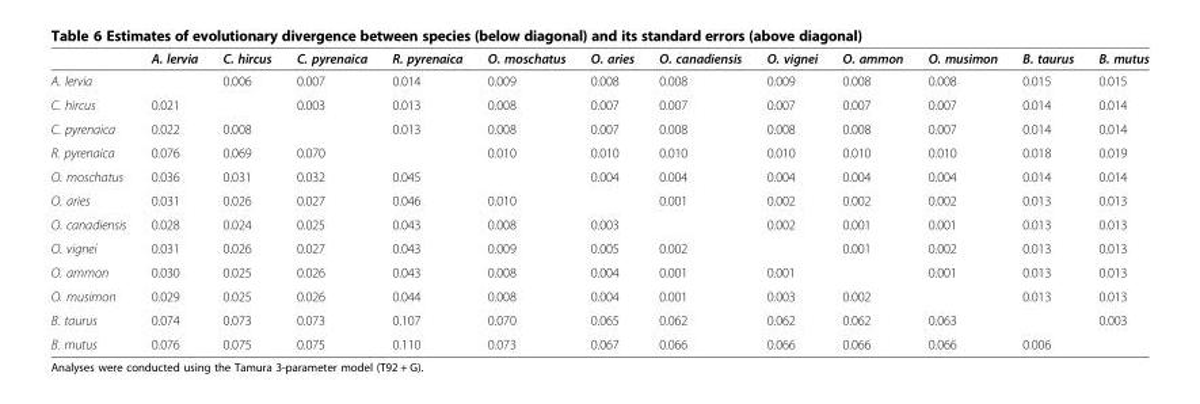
<table><thead><tr><td></td><td>A. lervia</td><td>C. hircus</td><td>C. pyrenaica</td><td>R. pyrenaica</td><td>O. moschatus</td><td>O. aries</td><td>O. canadiensis</td><td>O. vignei</td><td>O. ammon</td><td>O. musimon</td><td>B. taurus</td><td>B. mutus</td></tr></thead><tbody><tr><td>A. lervia</td><td></td><td>0.006</td><td>0.007</td><td>0.014</td><td>0.009</td><td>0.008</td><td>0.008</td><td>0.009</td><td>0.008</td><td>0.008</td><td>0.015</td><td>0.015</td></tr><tr><td>C. hircus</td><td>0.021</td><td></td><td>0.003</td><td>0.013</td><td>0.008</td><td>0.007</td><td>0.007</td><td>0.007</td><td>0.007</td><td>0.007</td><td>0.014</td><td>0.014</td></tr><tr><td>C. pyrenaica</td><td>0.022</td><td>0.008</td><td></td><td>0.013</td><td>0.008</td><td>0.007</td><td>0.008</td><td>0.008</td><td>0.008</td><td>0.007</td><td>0.014</td><td>0.014</td></tr><tr><td>R. pyrenaica</td><td>0.076</td><td>0.069</td><td>0.070</td><td></td><td>0.010</td><td>0.010</td><td>0.010</td><td>0.010</td><td>0.010</td><td>0.010</td><td>0.018</td><td>0.019</td></tr><tr><td>O. moschatus</td><td>0.036</td><td>0.031</td><td>0.032</td><td>0.045</td><td></td><td>0.004</td><td>0.004</td><td>0.004</td><td>0.004</td><td>0.004</td><td>0.014</td><td>0.014</td></tr><tr><td>O. aries</td><td>0.031</td><td>0.026</td><td>0.027</td><td>0.046</td><td>0.010</td><td></td><td>0.001</td><td>0.002</td><td>0.002</td><td>0.002</td><td>0.013</td><td>0.013</td></tr><tr><td>O. canadiensis</td><td>0.028</td><td>0.024</td><td>0.025</td><td>0.043</td><td>0.008</td><td>0.003</td><td></td><td>0.002</td><td>0.001</td><td>0.001</td><td>0.013</td><td>0.013</td></tr><tr><td>O. vignei</td><td>0.031</td><td>0.026</td><td>0.027</td><td>0.043</td><td>0.009</td><td>0.005</td><td>0.002</td><td></td><td>0.001</td><td>0.002</td><td>0.013</td><td>0.013</td></tr><tr><td>O. ammon</td><td>0.030</td><td>0.025</td><td>0.026</td><td>0.043</td><td>0.008</td><td>0.004</td><td>0.001</td><td>0.001</td><td></td><td>0.001</td><td>0.013</td><td>0.013</td></tr><tr><td>O. musimon</td><td>0.029</td><td>0.025</td><td>0.026</td><td>0.044</td><td>0.008</td><td>0.004</td><td>0.001</td><td>0.003</td><td>0.002</td><td></td><td>0.013</td><td>0.013</td></tr><tr><td>B. taurus</td><td>0.074</td><td>0.073</td><td>0.073</td><td>0.107</td><td>0.070</td><td>0.065</td><td>0.062</td><td>0.062</td><td>0.062</td><td>0.063</td><td></td><td>0.003</td></tr><tr><td>B. mutus</td><td>0.076</td><td>0.075</td><td>0.075</td><td>0.110</td><td>0.073</td><td>0.067</td><td>0.066</td><td>0.066</td><td>0.066</td><td>0.066</td><td>0.006</td><td></td></tr></tbody></table>